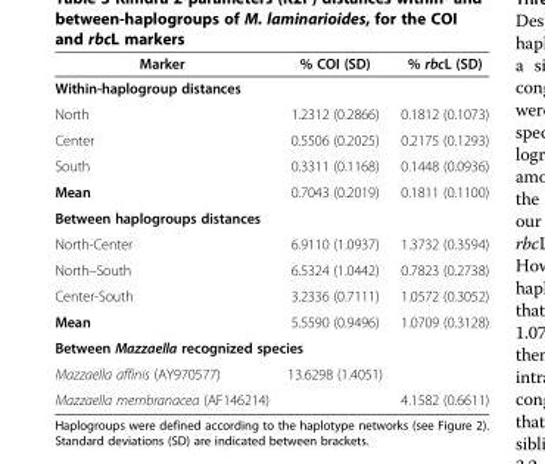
<table><thead><tr><td>Marker</td><td>% COI (SD)</td><td>% rbcL (SD)</td></tr></thead><tbody><tr><td colspan="3">Within-haplogroup distances</td></tr><tr><td>North</td><td>1.2312 (0.2866)</td><td>0.1812 (0.1073)</td></tr><tr><td>Center</td><td>0.5506 (0.2025)</td><td>0.2175 (0.1293)</td></tr><tr><td>South</td><td>0.3311 (0.1168)</td><td>0.1448 (0.0936)</td></tr><tr><td>Mean</td><td>0.7043 (0.2019)</td><td>0.1811 (0.1100)</td></tr><tr><td colspan="3">Between haplogroups distances</td></tr><tr><td>North-Center</td><td>6.9110 (1.0937)</td><td>1.3732 (0.3594)</td></tr><tr><td>North–South</td><td>6.5324 (1.0442)</td><td>0.7823 (0.2738)</td></tr><tr><td>Center-South</td><td>3.2336 (0.7111)</td><td>1.0572 (0.3052)</td></tr><tr><td>Mean</td><td>5.5590 (0.9496)</td><td>1.0709 (0.3128)</td></tr><tr><td colspan="3">Between Mazzaella recognized species</td></tr><tr><td>Mazzaella affinis (AY970577)</td><td>13.6298 (1.4051)</td><td></td></tr><tr><td>Mazzaella membranacea (AF146214)</td><td></td><td>4.1582 (0.6611)</td></tr></tbody></table>